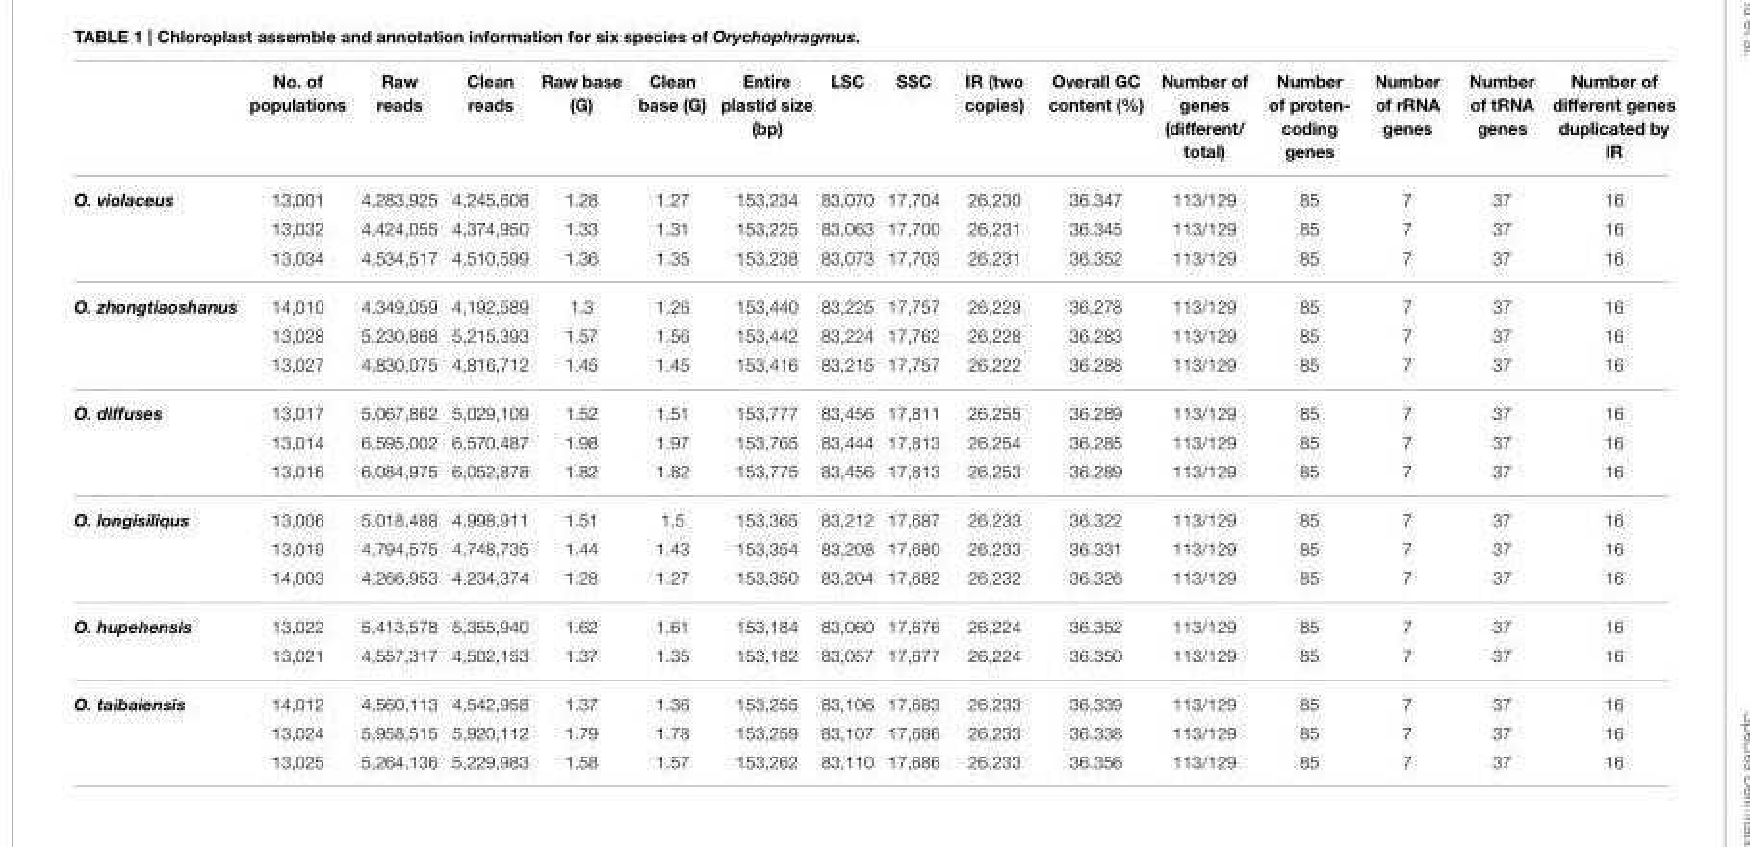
<table><thead><tr><td></td><td>No. of populations</td><td>Raw reads</td><td>Clean reads</td><td>Raw base (G)</td><td>Clean base (G)</td><td>Entire plastid size (bp)</td><td>LSC</td><td>SSC</td><td>IR (two copies)</td><td>Overall GC content (%)</td><td>Number of genes (different/ total)</td><td>Number of proten- coding genes</td><td>Number of rRNA genes</td><td>Number of tRNA genes</td><td>Number of different genes duplicated by IR</td></tr></thead><tbody><tr><td rowspan="3">O. violaceus</td><td>13,001</td><td>4,283,925</td><td>4,245,608</td><td>1.28</td><td>1.27</td><td>153,234</td><td>83,070</td><td>17,704</td><td>26,230</td><td>36.347</td><td>113/129</td><td>85</td><td>7</td><td>37</td><td>16</td></tr><tr><td>13,032</td><td>4,424,055</td><td>4,374,950</td><td>1.33</td><td>1.31</td><td>153,225</td><td>83,063</td><td>17,700</td><td>26,231</td><td>36.345</td><td>113/129</td><td>85</td><td>7</td><td>37</td><td>16</td></tr><tr><td>13,034</td><td>4,534,517</td><td>4,510,599</td><td>1.36</td><td>1.35</td><td>153,238</td><td>83,073</td><td>17,703</td><td>26,231</td><td>36.352</td><td>113/129</td><td>85</td><td>7</td><td>37</td><td>16</td></tr><tr><td rowspan="3">O. zhongtiaoshanus</td><td>14,010</td><td>4,349,059</td><td>4,192,589</td><td>1.3</td><td>1.26</td><td>153,440</td><td>83,225</td><td>17,757</td><td>26,229</td><td>36.278</td><td>113/129</td><td>85</td><td>7</td><td>37</td><td>16</td></tr><tr><td>13,028</td><td>5,230,868</td><td>5,215,393</td><td>1.57</td><td>1.56</td><td>153,442</td><td>83,224</td><td>17,762</td><td>26,228</td><td>36.283</td><td>113/129</td><td>85</td><td>7</td><td>37</td><td>16</td></tr><tr><td>13,027</td><td>4,830,075</td><td>4,816,712</td><td>1.45</td><td>1.45</td><td>153,416</td><td>83,215</td><td>17,757</td><td>26,222</td><td>36.288</td><td>113/129</td><td>85</td><td>7</td><td>37</td><td>16</td></tr><tr><td rowspan="3">O. diffuses</td><td>13,017</td><td>5,067,862</td><td>5,029,109</td><td>1.52</td><td>1.51</td><td>153,777</td><td>83,456</td><td>17,811</td><td>26,255</td><td>36.289</td><td>113/129</td><td>85</td><td>7</td><td>37</td><td>16</td></tr><tr><td>13,014</td><td>6,595,002</td><td>6,570,487</td><td>1.98</td><td>1.97</td><td>153,765</td><td>83,444</td><td>17,813</td><td>26,254</td><td>36.285</td><td>113/129</td><td>85</td><td>7</td><td>37</td><td>16</td></tr><tr><td>13,016</td><td>6,084,975</td><td>6,052,878</td><td>1.82</td><td>1.82</td><td>153,775</td><td>83,456</td><td>17,813</td><td>26,253</td><td>36.289</td><td>113/129</td><td>85</td><td>7</td><td>37</td><td>16</td></tr><tr><td rowspan="3">O. longisiliqus</td><td>13,006</td><td>5,018,488</td><td>4,998,911</td><td>1.51</td><td>1.5</td><td>153,365</td><td>83,212</td><td>17,687</td><td>26,233</td><td>36.322</td><td>113/129</td><td>85</td><td>7</td><td>37</td><td>16</td></tr><tr><td>13,019</td><td>4,794,575</td><td>4,748,735</td><td>1.44</td><td>1.43</td><td>153,354</td><td>83,208</td><td>17,680</td><td>26,233</td><td>36.331</td><td>113/129</td><td>85</td><td>7</td><td>37</td><td>16</td></tr><tr><td>14,003</td><td>4,266,953</td><td>4,234,374</td><td>1.28</td><td>1.27</td><td>153,350</td><td>83,204</td><td>17,682</td><td>26,232</td><td>36.326</td><td>113/129</td><td>85</td><td>7</td><td>37</td><td>16</td></tr><tr><td rowspan="2">O. hupehensis</td><td>13,022</td><td>5,413,578</td><td>5,355,940</td><td>1.62</td><td>1.61</td><td>153,184</td><td>83,060</td><td>17,676</td><td>26,224</td><td>36.352</td><td>113/129</td><td>85</td><td>7</td><td>37</td><td>16</td></tr><tr><td>13,021</td><td>4,557,317</td><td>4,502,153</td><td>1.37</td><td>1.35</td><td>153,182</td><td>83,057</td><td>17,677</td><td>26,224</td><td>36.350</td><td>113/129</td><td>85</td><td>7</td><td>37</td><td>16</td></tr><tr><td rowspan="3">O. taibaiensis</td><td>14,012</td><td>4,560,113</td><td>4,542,958</td><td>1.37</td><td>1.36</td><td>153,255</td><td>83,106</td><td>17,683</td><td>26,233</td><td>36.339</td><td>113/129</td><td>85</td><td>7</td><td>37</td><td>16</td></tr><tr><td>13,024</td><td>5,958,515</td><td>5,920,112</td><td>1.79</td><td>1.78</td><td>153,259</td><td>83,107</td><td>17,686</td><td>26,233</td><td>36.338</td><td>113/129</td><td>85</td><td>7</td><td>37</td><td>16</td></tr><tr><td>13,025</td><td>5,264,136</td><td>5,229,983</td><td>1.58</td><td>1.57</td><td>153,262</td><td>83,110</td><td>17,686</td><td>26,233</td><td>36.356</td><td>113/129</td><td>85</td><td>7</td><td>37</td><td>16</td></tr></tbody></table>